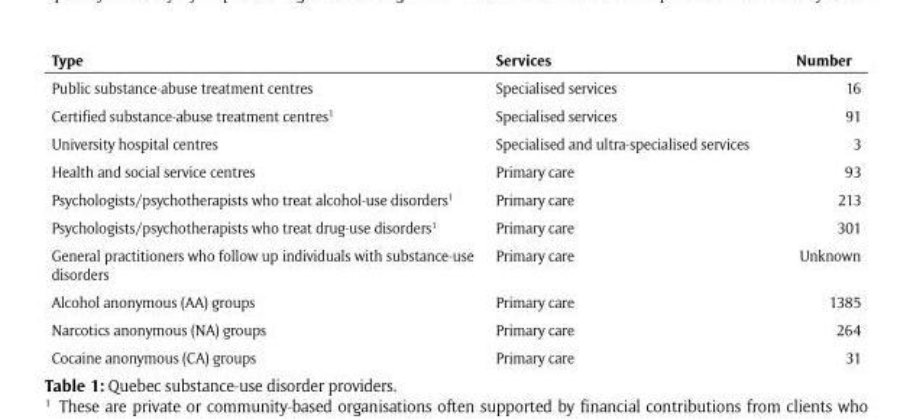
<table><thead><tr><td>Type</td><td>Services</td><td>Number</td></tr></thead><tbody><tr><td>Public substance-abuse treatment centres</td><td>Specialised services</td><td>16</td></tr><tr><td>Certified substance-abuse treatment centres<sup>1</sup></td><td>Specialised services</td><td>91</td></tr><tr><td>University hospital centres</td><td>Specialised and ultra-specialised services</td><td>3</td></tr><tr><td>Health and social service centres</td><td>Primary care</td><td>93</td></tr><tr><td>Psychologists/psychotherapists who treat alcohol-use disorders<sup>1</sup></td><td>Primary care</td><td>213</td></tr><tr><td>Psychologists/psychotherapists who treat drug-use disorders<sup>1</sup></td><td>Primary care</td><td>301</td></tr><tr><td>General practitioners who follow up individuals with substance-use disorders</td><td>Primary care</td><td>Unknown</td></tr><tr><td>Alcohol anonymous (AA) groups</td><td>Primary care</td><td>1385</td></tr><tr><td>Narcotics anonymous (NA) groups</td><td>Primary care</td><td>264</td></tr><tr><td>Cocaine anonymous (CA) groups</td><td>Primary care</td><td>31</td></tr></tbody></table>